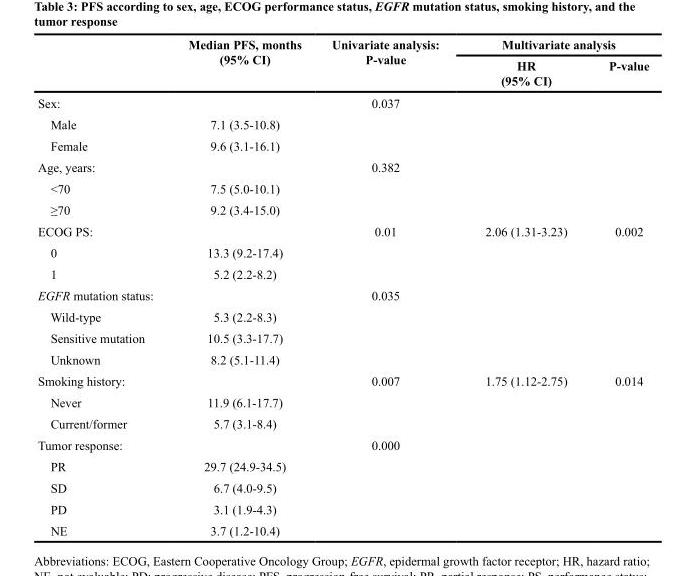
<table><thead><tr><td rowspan="2"></td><td rowspan="2">Median PFS, months (95% CI)</td><td rowspan="2">Univariate analysis: P-value</td><td colspan="2">Multivariate analysis</td></tr><tr><td>HR (95% CI)</td><td>P-value</td></tr></thead><tbody><tr><td>Sex:</td><td></td><td>0.037</td><td></td><td></td></tr><tr><td>Male</td><td>7.1 (3.5-10.8)</td><td></td><td></td><td></td></tr><tr><td>Female</td><td>9.6 (3.1-16.1)</td><td></td><td></td><td></td></tr><tr><td>Age, years:</td><td></td><td>0.382</td><td></td><td></td></tr><tr><td>&lt;70</td><td>7.5 (5.0-10.1)</td><td></td><td></td><td></td></tr><tr><td>≥70</td><td>9.2 (3.4-15.0)</td><td></td><td></td><td></td></tr><tr><td>ECOG PS:</td><td></td><td>0.01</td><td>2.06 (1.31-3.23)</td><td>0.002</td></tr><tr><td>0</td><td>13.3 (9.2-17.4)</td><td></td><td></td><td></td></tr><tr><td>1</td><td>5.2 (2.2-8.2)</td><td></td><td></td><td></td></tr><tr><td>EGFR mutation status:</td><td></td><td>0.035</td><td></td><td></td></tr><tr><td>Wild-type</td><td>5.3 (2.2-8.3)</td><td></td><td></td><td></td></tr><tr><td>Sensitive mutation</td><td>10.5 (3.3-17.7)</td><td></td><td></td><td></td></tr><tr><td>Unknown</td><td>8.2 (5.1-11.4)</td><td></td><td></td><td></td></tr><tr><td>Smoking history:</td><td></td><td>0.007</td><td>1.75 (1.12-2.75)</td><td>0.014</td></tr><tr><td>Never</td><td>11.9 (6.1-17.7)</td><td></td><td></td><td></td></tr><tr><td>Current/former</td><td>5.7 (3.1-8.4)</td><td></td><td></td><td></td></tr><tr><td>Tumor response:</td><td></td><td>0.000</td><td></td><td></td></tr><tr><td>PR</td><td>29.7 (24.9-34.5)</td><td></td><td></td><td></td></tr><tr><td>SD</td><td>6.7 (4.0-9.5)</td><td></td><td></td><td></td></tr><tr><td>PD</td><td>3.1 (1.9-4.3)</td><td></td><td></td><td></td></tr><tr><td>NE</td><td>3.7 (1.2-10.4)</td><td></td><td></td><td></td></tr></tbody></table>